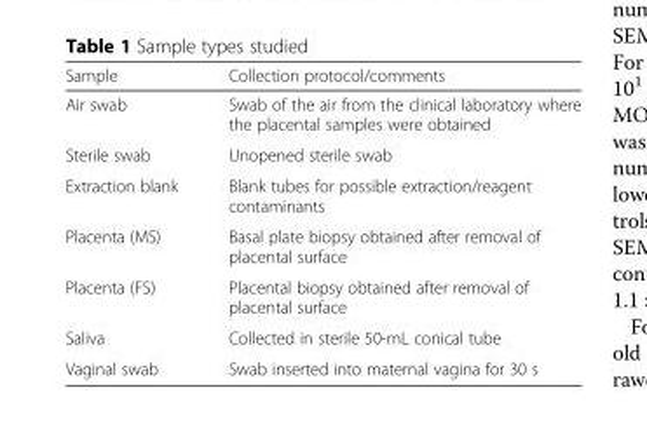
<table><thead><tr><td>Sample</td><td>Collection protocol/comments</td></tr></thead><tbody><tr><td>Air swab</td><td>Swab of the air from the clinical laboratory where the placental samples were obtained</td></tr><tr><td>Sterile swab</td><td>Unopened sterile swab</td></tr><tr><td>Extraction blank</td><td>Blank tubes for possible extraction/reagent contaminants</td></tr><tr><td>Placenta (MS)</td><td>Basal plate biopsy obtained after removal of placental surface</td></tr><tr><td>Placenta (FS)</td><td>Placental biopsy obtained after removal of placental surface</td></tr><tr><td>Saliva</td><td>Collected in sterile 50-mL conical tube</td></tr><tr><td>Vaginal swab</td><td>Swab inserted into maternal vagina for 30 s</td></tr></tbody></table>